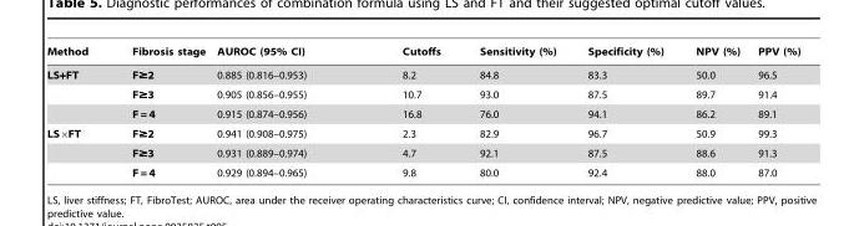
<table><thead><tr><td>Method</td><td>Fibrosis stage</td><td>AUROC (95% CI)</td><td>Cutoffs</td><td>Sensitivity (%)</td><td>Specificity (%)</td><td>NPV (%)</td><td>PPV (%)</td></tr></thead><tbody><tr><td rowspan="3">LS+FT</td><td>F≥2</td><td>0.885 (0.816–0.953)</td><td>8.2</td><td>84.8</td><td>83.3</td><td>50.0</td><td>96.5</td></tr><tr><td>F≥3</td><td>0.905 (0.856–0.955)</td><td>10.7</td><td>93.0</td><td>87.5</td><td>89.7</td><td>91.4</td></tr><tr><td>F = 4</td><td>0.915 (0.874–0.956)</td><td>16.8</td><td>76.0</td><td>94.1</td><td>86.2</td><td>89.1</td></tr><tr><td rowspan="3">LS×FT</td><td>F≥2</td><td>0.941 (0.908–0.975)</td><td>2.3</td><td>82.9</td><td>96.7</td><td>50.9</td><td>99.3</td></tr><tr><td>F≥3</td><td>0.931 (0.889–0.974)</td><td>4.7</td><td>92.1</td><td>87.5</td><td>88.6</td><td>91.3</td></tr><tr><td>F = 4</td><td>0.929 (0.894–0.965)</td><td>9.8</td><td>80.0</td><td>92.4</td><td>88.0</td><td>87.0</td></tr></tbody></table>